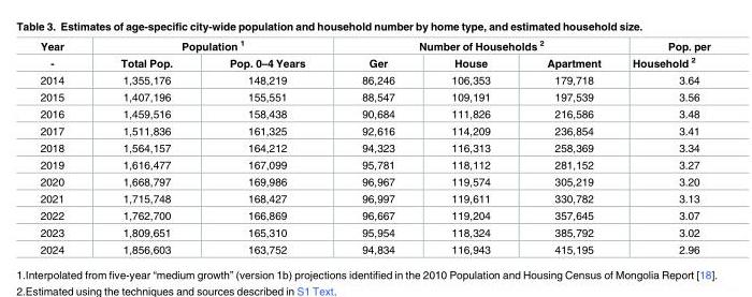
<table><thead><tr><td rowspan="2">Year -</td><td colspan="2">Population <sup>1</sup></td><td colspan="3">Number of Households <sup>2</sup></td><td rowspan="2">Pop. per Household <sup>2</sup></td></tr><tr><td>Total Pop.</td><td>Pop. 0–4 Years</td><td>Ger</td><td>House</td><td>Apartment</td></tr></thead><tbody><tr><td>2014</td><td>1,355,176</td><td>148,219</td><td>86,246</td><td>106,353</td><td>179,718</td><td>3.64</td></tr><tr><td>2015</td><td>1,407,196</td><td>155,551</td><td>88,547</td><td>109,191</td><td>197,539</td><td>3.56</td></tr><tr><td>2016</td><td>1,459,516</td><td>158,438</td><td>90,684</td><td>111,826</td><td>216,586</td><td>3.48</td></tr><tr><td>2017</td><td>1,511,836</td><td>161,325</td><td>92,616</td><td>114,209</td><td>236,854</td><td>3.41</td></tr><tr><td>2018</td><td>1,564,157</td><td>164,212</td><td>94,323</td><td>116,313</td><td>258,369</td><td>3.34</td></tr><tr><td>2019</td><td>1,616,477</td><td>167,099</td><td>95,781</td><td>118,112</td><td>281,152</td><td>3.27</td></tr><tr><td>2020</td><td>1,668,797</td><td>169,986</td><td>96,967</td><td>119,574</td><td>305,219</td><td>3.20</td></tr><tr><td>2021</td><td>1,715,748</td><td>168,427</td><td>96,997</td><td>119,611</td><td>330,782</td><td>3.13</td></tr><tr><td>2022</td><td>1,762,700</td><td>166,869</td><td>96,667</td><td>119,204</td><td>357,645</td><td>3.07</td></tr><tr><td>2023</td><td>1,809,651</td><td>165,310</td><td>95,954</td><td>118,324</td><td>385,792</td><td>3.02</td></tr><tr><td>2024</td><td>1,856,603</td><td>163,752</td><td>94,834</td><td>116,943</td><td>415,195</td><td>2.96</td></tr></tbody></table>